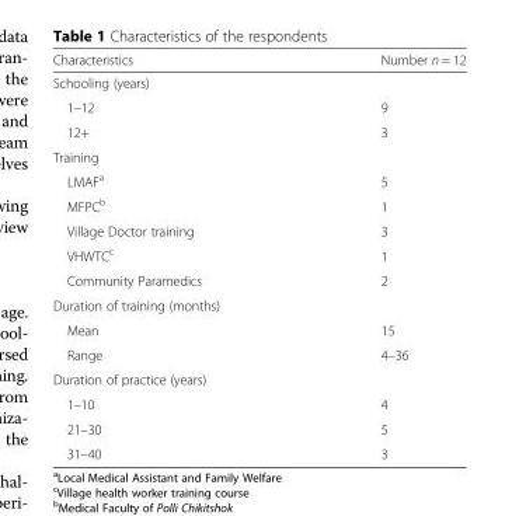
<table><thead><tr><td>Characteristics</td><td>Number n = 12</td></tr></thead><tbody><tr><td colspan="2">Schooling (years)</td></tr><tr><td>1–12</td><td>9</td></tr><tr><td>12+</td><td>3</td></tr><tr><td colspan="2">Training</td></tr><tr><td>LMAF<sup>a</sup></td><td>5</td></tr><tr><td>MFPC<sup>b</sup></td><td>1</td></tr><tr><td>Village Doctor training</td><td>3</td></tr><tr><td>VHWTC<sup>c</sup></td><td>1</td></tr><tr><td>Community Paramedics</td><td>2</td></tr><tr><td colspan="2">Duration of training (months)</td></tr><tr><td>Mean</td><td>15</td></tr><tr><td>Range</td><td>4–36</td></tr><tr><td colspan="2">Duration of practice (years)</td></tr><tr><td>1–10</td><td>4</td></tr><tr><td>21–30</td><td>5</td></tr><tr><td>31–40</td><td>3</td></tr></tbody></table>